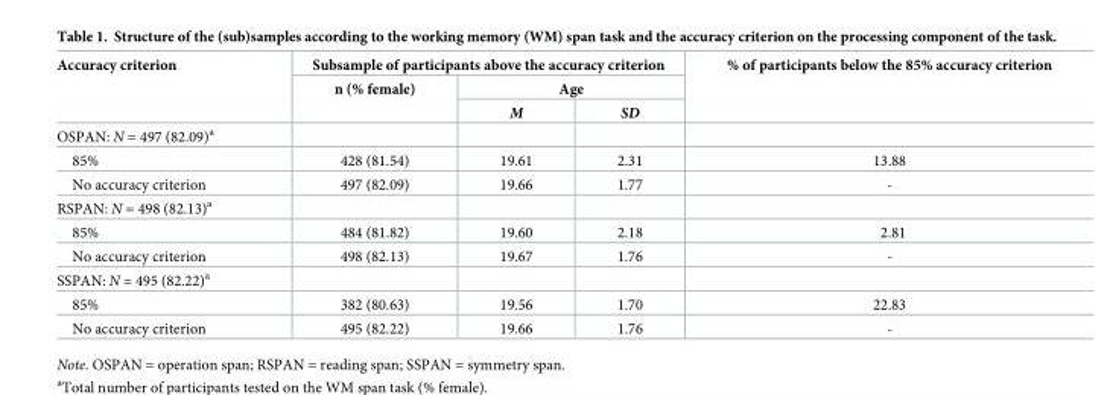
<table><thead><tr><td rowspan="3">Accuracy criterion</td><td colspan="3">Subsample of participants above the accuracy criterion</td><td rowspan="3">% of participants below the 85% accuracy criterion</td></tr><tr><td rowspan="2">n (% female)</td><td colspan="2">Age</td></tr><tr><td>M</td><td>SD</td></tr></thead><tbody><tr><td colspan="5">OSPAN: N = 497 (82.09)<sup>a</sup></td></tr><tr><td>85%</td><td>428 (81.54)</td><td>19.61</td><td>2.31</td><td>13.88</td></tr><tr><td>No accuracy criterion</td><td>497 (82.09)</td><td>19.66</td><td>1.77</td><td>-</td></tr><tr><td colspan="5">RSPAN: N = 498 (82.13)<sup>a</sup></td></tr><tr><td>85%</td><td>484 (81.82)</td><td>19.60</td><td>2.18</td><td>2.81</td></tr><tr><td>No accuracy criterion</td><td>498 (82.13)</td><td>19.67</td><td>1.76</td><td>-</td></tr><tr><td colspan="5">SSPAN: N = 495 (82.22)<sup>a</sup></td></tr><tr><td>85%</td><td>382 (80.63)</td><td>19.56</td><td>1.70</td><td>22.83</td></tr><tr><td>No accuracy criterion</td><td>495 (82.22)</td><td>19.66</td><td>1.76</td><td>-</td></tr></tbody></table>